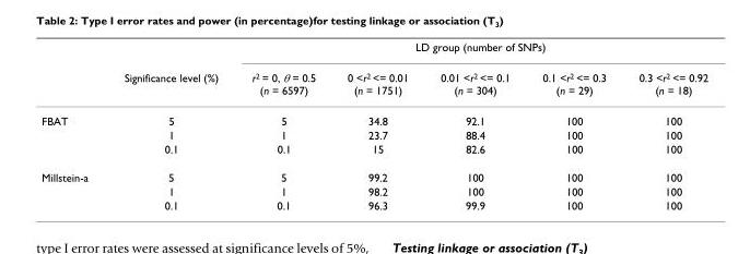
<table><thead><tr><td rowspan="2"></td><td rowspan="2">Significance level (%)</td><td colspan="5">LD group (number of SNPs)</td></tr><tr><td>r<sup>2</sup> = 0, θ = 0.5 (n = 6597)</td><td>0 &lt;r<sup>2</sup> &lt;= 0.01 (n = 1751)</td><td>0.01 &lt;r<sup>2</sup> &lt;= 0.1 (n = 304)</td><td>0.1 &lt;r<sup>2</sup> &lt;= 0.3 (n = 29)</td><td>0.3 &lt;r<sup>2</sup> &lt;= 0.92 (n = 18)</td></tr></thead><tbody><tr><td rowspan="3">FBAT</td><td>5</td><td>5</td><td>34.8</td><td>92.1</td><td>100</td><td>100</td></tr><tr><td>1</td><td>1</td><td>23.7</td><td>88.4</td><td>100</td><td>100</td></tr><tr><td>0.1</td><td>0.1</td><td>15</td><td>82.6</td><td>100</td><td>100</td></tr><tr><td rowspan="3">Millstein-a</td><td>5</td><td>5</td><td>99.2</td><td>100</td><td>100</td><td>100</td></tr><tr><td>1</td><td>1</td><td>98.2</td><td>100</td><td>100</td><td>100</td></tr><tr><td>0.1</td><td>0.1</td><td>96.3</td><td>99.9</td><td>100</td><td>100</td></tr></tbody></table>